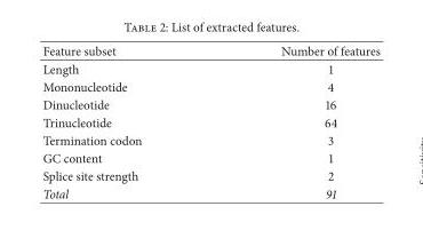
<table><thead><tr><td>Feature subset</td><td>Number of features</td></tr></thead><tbody><tr><td>Length</td><td>1</td></tr><tr><td>Mononucleotide</td><td>4</td></tr><tr><td>Dinucleotide</td><td>16</td></tr><tr><td>Trinucleotide</td><td>64</td></tr><tr><td>Termination codon</td><td>3</td></tr><tr><td>GC content</td><td>1</td></tr><tr><td>Splice site strength</td><td>2</td></tr><tr><td>Total</td><td>91</td></tr></tbody></table>